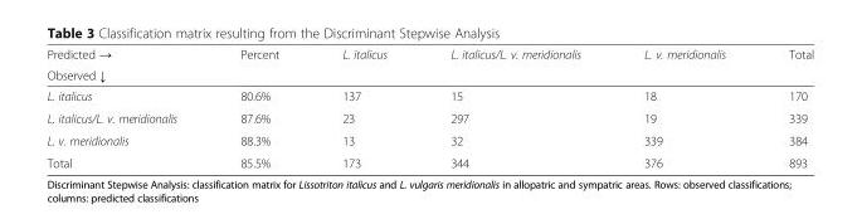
<table><thead><tr><td rowspan="2">Predicted → Observed ↓</td><td rowspan="2">Percent</td><td rowspan="2">L. italicus</td><td rowspan="2">L. italicus/L. v. meridionalis</td><td rowspan="2">L. v. meridionalis</td><td rowspan="2">Total</td></tr><tr></tr></thead><tbody><tr><td>L. italicus</td><td>80.6%</td><td>137</td><td>15</td><td>18</td><td>170</td></tr><tr><td>L. italicus/L. v. meridionalis</td><td>87.6%</td><td>23</td><td>297</td><td>19</td><td>339</td></tr><tr><td>L. v. meridionalis</td><td>88.3%</td><td>13</td><td>32</td><td>339</td><td>384</td></tr><tr><td>Total</td><td>85.5%</td><td>173</td><td>344</td><td>376</td><td>893</td></tr></tbody></table>